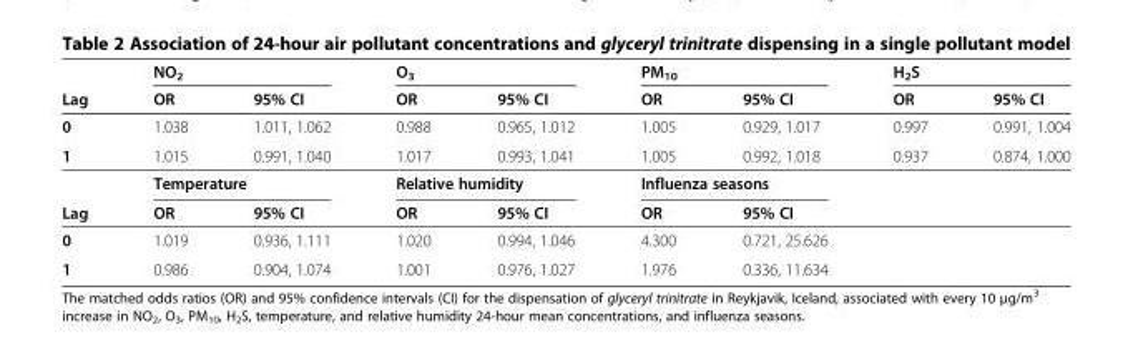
<table><thead><tr><td rowspan="2">Lag</td><td rowspan="2">NO<sub>2</sub> OR</td><td rowspan="2">95% CI</td><td rowspan="2">O<sub>3</sub> OR</td><td rowspan="2">95% CI</td><td rowspan="2">PM<sub>10</sub> OR</td><td rowspan="2">95% CI</td><td rowspan="2">H<sub>2</sub>S OR</td><td rowspan="2">95% CI</td></tr><tr></tr></thead><tbody><tr><td>0</td><td>1.038</td><td>1.011, 1.062</td><td>0.988</td><td>0.965, 1.012</td><td>1.005</td><td>0.929, 1.017</td><td>0.997</td><td>0.991, 1.004</td></tr><tr><td rowspan="2">1</td><td>1.015</td><td>0.991, 1.040</td><td>1.017</td><td>0.993, 1.041</td><td>1.005</td><td>0.992, 1.018</td><td>0.937</td><td>0.874, 1.000</td></tr><tr><td colspan="2">Temperature</td><td colspan="2">Relative humidity</td><td colspan="2">Influenza seasons</td><td></td><td></td></tr><tr><td>Lag</td><td>OR</td><td>95% CI</td><td>OR</td><td>95% CI</td><td>OR</td><td>95% CI</td><td></td><td></td></tr><tr><td>0</td><td>1.019</td><td>0.936, 1.111</td><td>1.020</td><td>0.994, 1.046</td><td>4.300</td><td>0.721, 25.626</td><td></td><td></td></tr><tr><td>1</td><td>0.986</td><td>0.904, 1.074</td><td>1.001</td><td>0.976, 1.027</td><td>1.976</td><td>0.336, 11.634</td><td></td><td></td></tr></tbody></table>